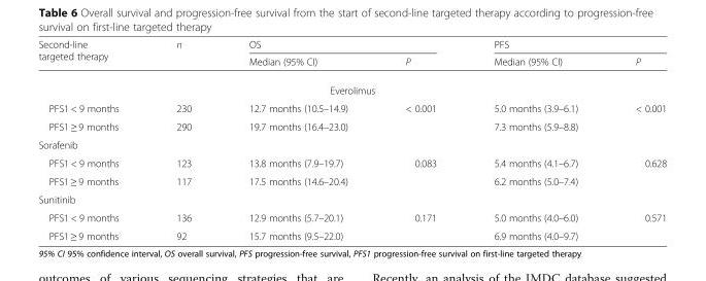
<table><thead><tr><td rowspan="2">Second-line targeted therapy</td><td rowspan="2">n</td><td colspan="2">OS</td><td colspan="2">PFS</td></tr><tr><td>Median (95% CI)</td><td>P</td><td>Median (95% CI)</td><td>P</td></tr></thead><tbody><tr><td colspan="6">Everolimus</td></tr><tr><td>PFS1 &lt; 9 months</td><td>230</td><td>12.7 months (10.5–14.9)</td><td rowspan="2">&lt; 0.001</td><td>5.0 months (3.9–6.1)</td><td rowspan="2">&lt; 0.001</td></tr><tr><td>PFS1 ≥ 9 months</td><td>290</td><td>19.7 months (16.4–23.0)</td><td>7.3 months (5.9–8.8)</td></tr><tr><td colspan="6">Sorafenib</td></tr><tr><td>PFS1 &lt; 9 months</td><td>123</td><td>13.8 months (7.9–19.7)</td><td rowspan="2">0.083</td><td>5.4 months (4.1–6.7)</td><td rowspan="2">0.628</td></tr><tr><td>PFS1 ≥ 9 months</td><td>117</td><td>17.5 months (14.6–20.4)</td><td>6.2 months (5.0–7.4)</td></tr><tr><td colspan="6">Sunitinib</td></tr><tr><td>PFS1 &lt; 9 months</td><td>136</td><td>12.9 months (5.7–20.1)</td><td rowspan="2">0.171</td><td>5.0 months (4.0–6.0)</td><td rowspan="2">0.571</td></tr><tr><td>PFS1 ≥ 9 months</td><td>92</td><td>15.7 months (9.5–22.0)</td><td>6.9 months (4.0–9.7)</td></tr></tbody></table>